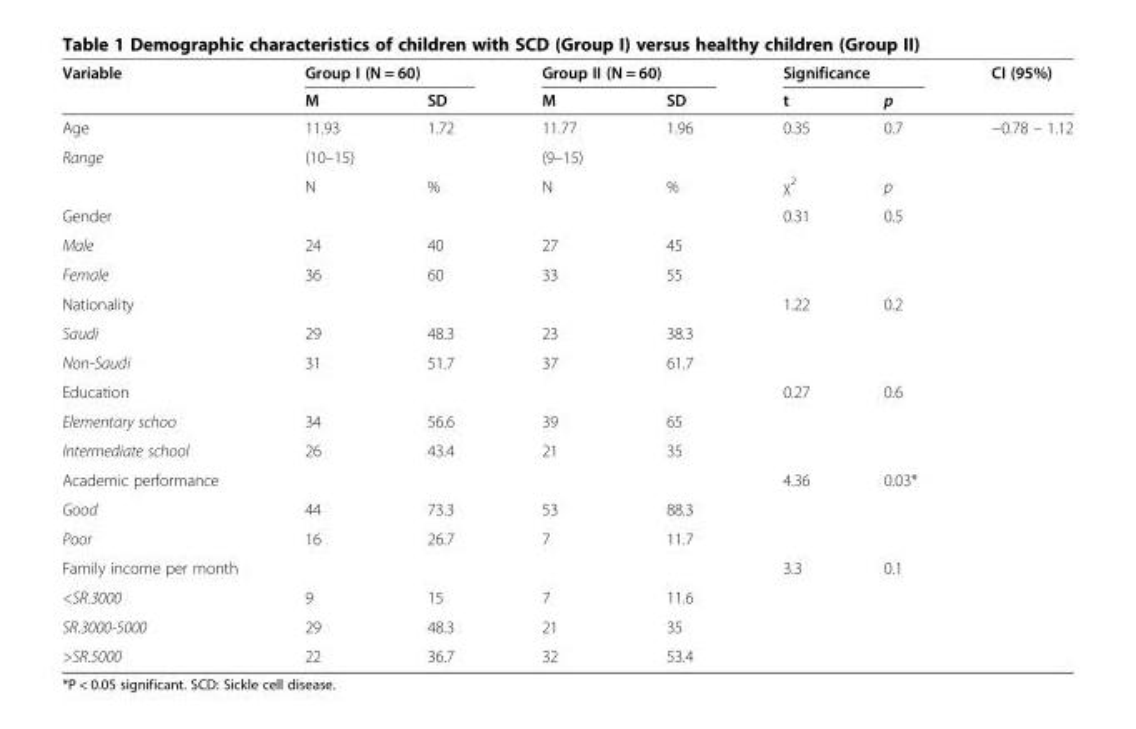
<table><thead><tr><td rowspan="2">Variable</td><td colspan="2">Group I (N = 60)</td><td colspan="2">Group II (N = 60)</td><td colspan="2">Significance</td><td rowspan="2">CI (95%)</td></tr><tr><td>M</td><td>SD</td><td>M</td><td>SD</td><td>t</td><td>p</td></tr></thead><tbody><tr><td>Age</td><td>11.93</td><td>1.72</td><td>11.77</td><td>1.96</td><td>0.35</td><td>0.7</td><td>−0.78 – 1.12</td></tr><tr><td rowspan="2">Range</td><td colspan="2">(10–15)</td><td colspan="2">(9–15)</td><td></td><td></td><td></td></tr><tr><td>N</td><td>%</td><td>N</td><td>%</td><td>χ<sup>2</sup></td><td>p</td><td></td></tr><tr><td>Gender</td><td></td><td></td><td></td><td></td><td>0.31</td><td>0.5</td><td></td></tr><tr><td>Male</td><td>24</td><td>40</td><td>27</td><td>45</td><td></td><td></td><td></td></tr><tr><td>Female</td><td>36</td><td>60</td><td>33</td><td>55</td><td></td><td></td><td></td></tr><tr><td>Nationality</td><td></td><td></td><td></td><td></td><td>1.22</td><td>0.2</td><td></td></tr><tr><td>Saudi</td><td>29</td><td>48.3</td><td>23</td><td>38.3</td><td rowspan="2"></td><td rowspan="2"></td><td rowspan="2"></td></tr><tr><td>Non-Saudi</td><td>31</td><td>51.7</td><td>37</td><td>61.7</td></tr><tr><td>Education</td><td></td><td></td><td></td><td></td><td>0.27</td><td>0.6</td><td></td></tr><tr><td>Elementary schoo</td><td>34</td><td>56.6</td><td>39</td><td>65</td><td></td><td></td><td></td></tr><tr><td>Intermediate school</td><td>26</td><td>43.4</td><td>21</td><td>35</td><td></td><td></td><td></td></tr><tr><td>Academic performance</td><td></td><td></td><td></td><td></td><td>4.36</td><td>0.03*</td><td></td></tr><tr><td>Good</td><td>44</td><td>73.3</td><td>53</td><td>88.3</td><td></td><td></td><td></td></tr><tr><td>Poor</td><td>16</td><td>26.7</td><td>7</td><td>11.7</td><td></td><td></td><td></td></tr><tr><td>Family income per month</td><td></td><td></td><td></td><td></td><td>3.3</td><td>0.1</td><td></td></tr><tr><td>&lt;SR.3000</td><td>9</td><td>15</td><td>7</td><td>11.6</td><td></td><td></td><td></td></tr><tr><td>SR.3000-5000</td><td>29</td><td>48.3</td><td>21</td><td>35</td><td></td><td></td><td></td></tr><tr><td>&gt;SR.5000</td><td>22</td><td>36.7</td><td>32</td><td>53.4</td><td></td><td></td><td></td></tr></tbody></table>